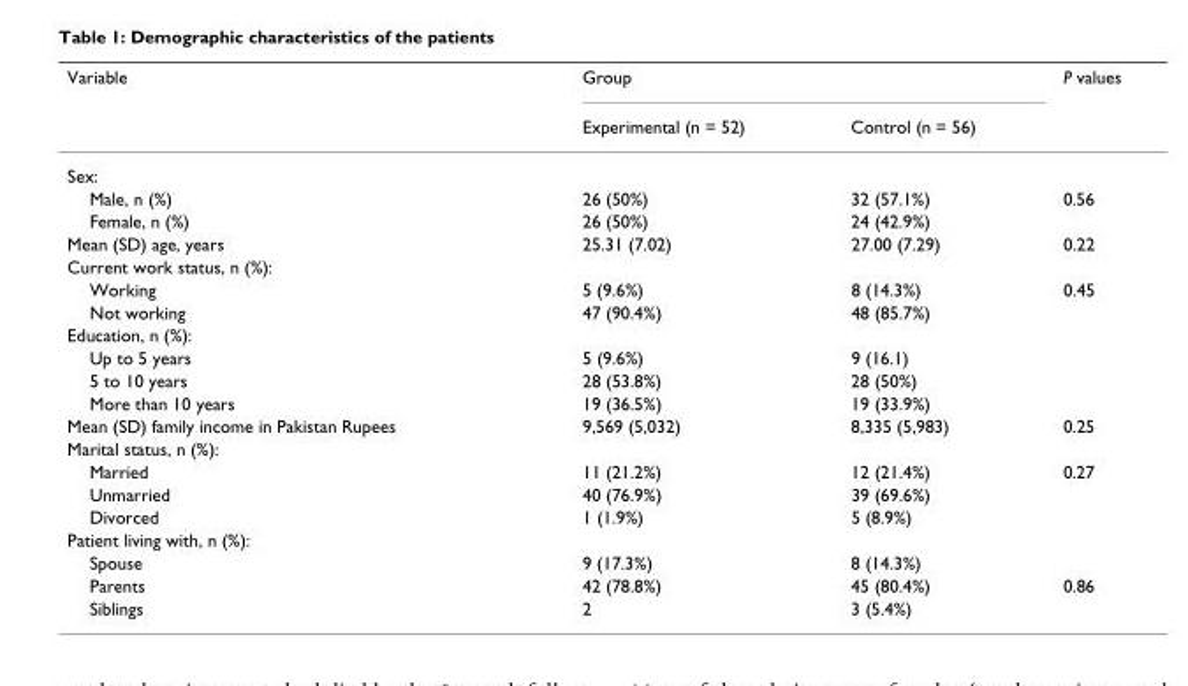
<table><thead><tr><td rowspan="2">Variable</td><td colspan="2">Group</td><td rowspan="2">P values</td></tr><tr><td>Experimental (n = 52)</td><td>Control (n = 56)</td></tr></thead><tbody><tr><td colspan="4">Sex:</td></tr><tr><td>Male, n (%)</td><td>26 (50%)</td><td>32 (57.1%)</td><td>0.56</td></tr><tr><td>Female, n (%)</td><td>26 (50%)</td><td>24 (42.9%)</td><td></td></tr><tr><td>Mean (SD) age, years</td><td>25.31 (7.02)</td><td>27.00 (7.29)</td><td>0.22</td></tr><tr><td colspan="4">Current work status, n (%):</td></tr><tr><td>Working</td><td>5 (9.6%)</td><td>8 (14.3%)</td><td>0.45</td></tr><tr><td>Not working</td><td>47 (90.4%)</td><td>48 (85.7%)</td><td></td></tr><tr><td colspan="4">Education, n (%):</td></tr><tr><td>Up to 5 years</td><td>5 (9.6%)</td><td>9 (16.1)</td><td></td></tr><tr><td>5 to 10 years</td><td>28 (53.8%)</td><td>28 (50%)</td><td></td></tr><tr><td>More than 10 years</td><td>19 (36.5%)</td><td>19 (33.9%)</td><td></td></tr><tr><td>Mean (SD) family income in Pakistan Rupees</td><td>9,569 (5,032)</td><td>8,335 (5,983)</td><td>0.25</td></tr><tr><td colspan="4">Marital status, n (%):</td></tr><tr><td>Married</td><td>11 (21.2%)</td><td>12 (21.4%)</td><td>0.27</td></tr><tr><td>Unmarried</td><td>40 (76.9%)</td><td>39 (69.6%)</td><td></td></tr><tr><td>Divorced</td><td>1 (1.9%)</td><td>5 (8.9%)</td><td></td></tr><tr><td colspan="4">Patient living with, n (%):</td></tr><tr><td>Spouse</td><td>9 (17.3%)</td><td>8 (14.3%)</td><td></td></tr><tr><td>Parents</td><td>42 (78.8%)</td><td>45 (80.4%)</td><td>0.86</td></tr><tr><td>Siblings</td><td>2</td><td>3 (5.4%)</td><td></td></tr></tbody></table>